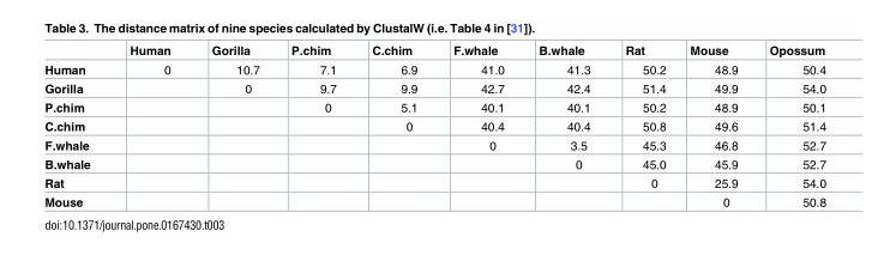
<table><thead><tr><td></td><td>Human</td><td>Gorilla</td><td>P.chim</td><td>C.chim</td><td>F.whale</td><td>B.whale</td><td>Rat</td><td>Mouse</td><td>Opossum</td></tr></thead><tbody><tr><td>Human</td><td>0</td><td>10.7</td><td>7.1</td><td>6.9</td><td>41.0</td><td>41.3</td><td>50.2</td><td>48.9</td><td>50.4</td></tr><tr><td>Gorilla</td><td></td><td>0</td><td>9.7</td><td>9.9</td><td>42.7</td><td>42.4</td><td>51.4</td><td>49.9</td><td>54.0</td></tr><tr><td>P.chim</td><td></td><td></td><td>0</td><td>5.1</td><td>40.1</td><td>40.1</td><td>50.2</td><td>48.9</td><td>50.1</td></tr><tr><td>C.chim</td><td></td><td></td><td></td><td>0</td><td>40.4</td><td>40.4</td><td>50.8</td><td>49.6</td><td>51.4</td></tr><tr><td>F.whale</td><td></td><td></td><td></td><td></td><td>0</td><td>3.5</td><td>45.3</td><td>46.8</td><td>52.7</td></tr><tr><td>B.whale</td><td></td><td></td><td></td><td></td><td></td><td>0</td><td>45.0</td><td>45.9</td><td>52.7</td></tr><tr><td>Rat</td><td></td><td></td><td></td><td></td><td></td><td></td><td>0</td><td>25.9</td><td>54.0</td></tr><tr><td>Mouse</td><td></td><td></td><td></td><td></td><td></td><td></td><td></td><td>0</td><td>50.8</td></tr></tbody></table>